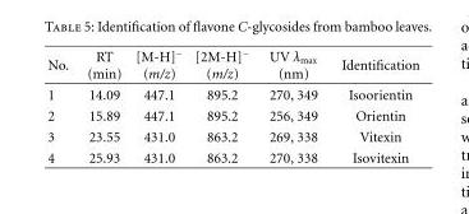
<table><thead><tr><td>No.</td><td>RT (min)</td><td>[M-H]<sup>−</sup> (m/z)</td><td>[2M-H]<sup>−</sup> (m/z)</td><td>UV λ<sub>max</sub> (nm)</td><td>Identification</td></tr></thead><tbody><tr><td>1</td><td>14.09</td><td>447.1</td><td>895.2</td><td>270, 349</td><td>Isoorientin</td></tr><tr><td>2</td><td>15.89</td><td>447.1</td><td>895.2</td><td>256, 349</td><td>Orientin</td></tr><tr><td>3</td><td>23.55</td><td>431.0</td><td>863.2</td><td>269, 338</td><td>Vitexin</td></tr><tr><td>4</td><td>25.93</td><td>431.0</td><td>863.2</td><td>270, 338</td><td>Isovitexin</td></tr></tbody></table>